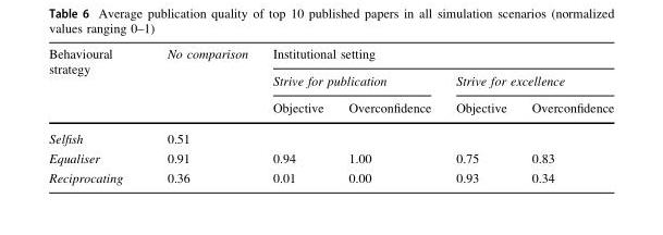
<table><thead><tr><td rowspan="3">Behavioural strategy</td><td rowspan="3">No comparison</td><td colspan="4">Institutional setting</td></tr><tr><td colspan="2">Strive for publication</td><td colspan="2">Strive for excellence</td></tr><tr><td>Objective</td><td>Overconfidence</td><td>Objective</td><td>Overconfidence</td></tr></thead><tbody><tr><td>Selfish</td><td>0.51</td><td></td><td></td><td></td><td></td></tr><tr><td>Equaliser</td><td>0.91</td><td>0.94</td><td>1.00</td><td>0.75</td><td>0.83</td></tr><tr><td>Reciprocating</td><td>0.36</td><td>0.01</td><td>0.00</td><td>0.93</td><td>0.34</td></tr></tbody></table>